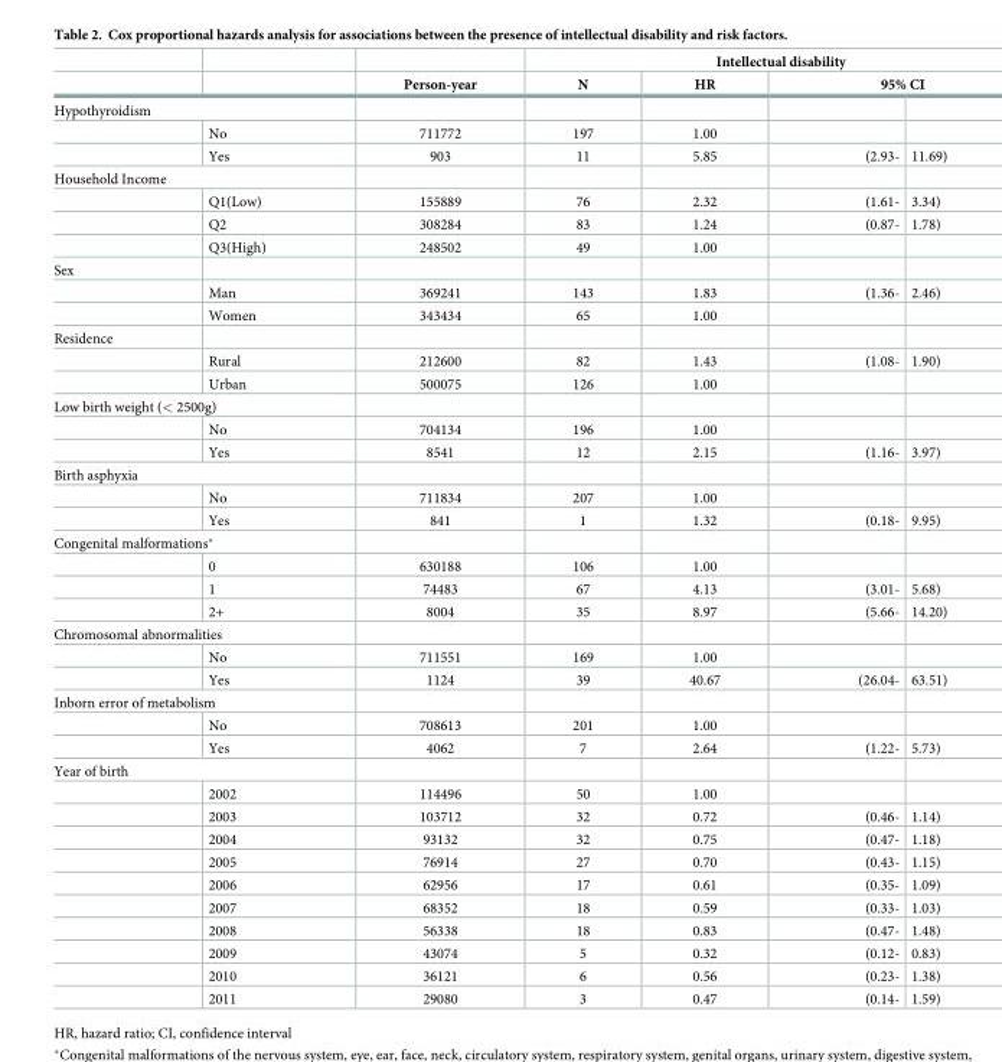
<table><thead><tr><td rowspan="2"></td><td rowspan="2"></td><td rowspan="3">Person-year</td><td colspan="4">Intellectual disability</td></tr><tr><td rowspan="2">N</td><td rowspan="2">HR</td><td colspan="2">95% CI</td></tr><tr><td colspan="2">Hypothyroidism</td><td></td><td></td></tr></thead><tbody><tr><td></td><td>No</td><td>711772</td><td>197</td><td>1.00</td><td></td><td></td></tr><tr><td></td><td>Yes</td><td>903</td><td>11</td><td>5.85</td><td>(2.93-</td><td>11.69)</td></tr><tr><td colspan="7">Household Income</td></tr><tr><td></td><td>Q1(Low)</td><td>155889</td><td>76</td><td>2.32</td><td>(1.61-</td><td>3.34)</td></tr><tr><td></td><td>Q2</td><td>308284</td><td>83</td><td>1.24</td><td>(0.87-</td><td>1.78)</td></tr><tr><td></td><td>Q3(High)</td><td>248502</td><td>49</td><td>1.00</td><td></td><td></td></tr><tr><td colspan="7">Sex</td></tr><tr><td></td><td>Man</td><td>369241</td><td>143</td><td>1.83</td><td>(1.36-</td><td>2.46)</td></tr><tr><td></td><td>Women</td><td>343434</td><td>65</td><td>1.00</td><td></td><td></td></tr><tr><td colspan="7">Residence</td></tr><tr><td></td><td>Rural</td><td>212600</td><td>82</td><td>1.43</td><td>(1.08-</td><td>1.90)</td></tr><tr><td></td><td>Urban</td><td>500075</td><td>126</td><td>1.00</td><td></td><td></td></tr><tr><td colspan="7">Low birth weight (&lt; 2500g)</td></tr><tr><td></td><td>No</td><td>704134</td><td>196</td><td>1.00</td><td></td><td></td></tr><tr><td></td><td>Yes</td><td>8541</td><td>12</td><td>2.15</td><td>(1.16-</td><td>3.97)</td></tr><tr><td colspan="7">Birth asphyxia</td></tr><tr><td></td><td>No</td><td>711834</td><td>207</td><td>1.00</td><td></td><td></td></tr><tr><td></td><td>Yes</td><td>841</td><td>1</td><td>1.32</td><td>(0.18-</td><td>9.95)</td></tr><tr><td colspan="7">Congenital malformations*</td></tr><tr><td></td><td>0</td><td>630188</td><td>106</td><td>1.00</td><td></td><td></td></tr><tr><td></td><td>1</td><td>74483</td><td>67</td><td>4.13</td><td>(3.01-</td><td>5.68)</td></tr><tr><td></td><td>2+</td><td>8004</td><td>35</td><td>8.97</td><td>(5.66-</td><td>14.20)</td></tr><tr><td colspan="7">Chromosomal abnormalities</td></tr><tr><td></td><td>No</td><td>711551</td><td>169</td><td>1.00</td><td></td><td></td></tr><tr><td></td><td>Yes</td><td>1124</td><td>39</td><td>40.67</td><td>(26.04-</td><td>63.51)</td></tr><tr><td colspan="7">Inborn error of metabolism</td></tr><tr><td></td><td>No</td><td>708613</td><td>201</td><td>1.00</td><td></td><td></td></tr><tr><td></td><td>Yes</td><td>4062</td><td>7</td><td>2.64</td><td>(1.22-</td><td>5.73)</td></tr><tr><td colspan="7">Year of birth</td></tr><tr><td></td><td>2002</td><td>114496</td><td>50</td><td>1.00</td><td></td><td></td></tr><tr><td></td><td>2003</td><td>103712</td><td>32</td><td>0.72</td><td>(0.46-</td><td>1.14)</td></tr><tr><td></td><td>2004</td><td>93132</td><td>32</td><td>0.75</td><td>(0.47-</td><td>1.18)</td></tr><tr><td></td><td>2005</td><td>76914</td><td>27</td><td>0.70</td><td>(0.43-</td><td>1.15)</td></tr><tr><td></td><td>2006</td><td>62956</td><td>17</td><td>0.61</td><td>(0.35-</td><td>1.09)</td></tr><tr><td></td><td>2007</td><td>68352</td><td>18</td><td>0.59</td><td>(0.33-</td><td>1.03)</td></tr><tr><td></td><td>2008</td><td>56338</td><td>18</td><td>0.83</td><td>(0.47-</td><td>1.48)</td></tr><tr><td></td><td>2009</td><td>43074</td><td>5</td><td>0.32</td><td>(0.12-</td><td>0.83)</td></tr><tr><td></td><td>2010</td><td>36121</td><td>6</td><td>0.56</td><td>(0.23-</td><td>1.38)</td></tr><tr><td></td><td>2011</td><td>29080</td><td>3</td><td>0.47</td><td>(0.14-</td><td>1.59)</td></tr></tbody></table>